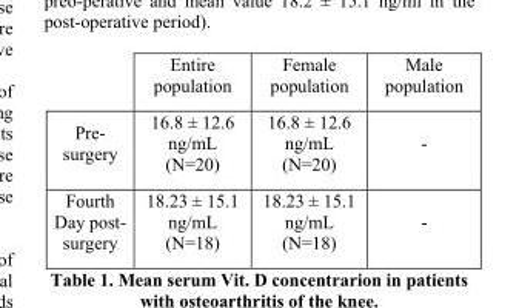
<table><thead><tr><td></td><td>Entire population</td><td>Female population</td><td>Male population</td></tr></thead><tbody><tr><td>Pre- surgery</td><td>16.8 ± 12.6 ng/mL (N=20)</td><td>16.8 ± 12.6 ng/mL (N=20)</td><td>-</td></tr><tr><td>Fourth Day post- surgery</td><td>18.23 ± 15.1 ng/mL (N=18)</td><td>18.23 ± 15.1 ng/mL (N=18)</td><td>-</td></tr></tbody></table>